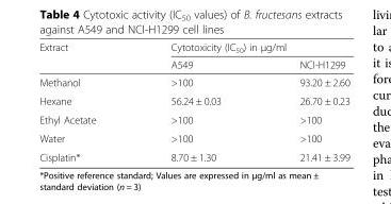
<table><thead><tr><td rowspan="2">Extract</td><td colspan="2">Cytotoxicity (IC<sub>50</sub>) in μg/ml</td></tr><tr><td>A549</td><td>NCI-H1299</td></tr></thead><tbody><tr><td>Methanol</td><td>&gt;100</td><td>93.20 ± 2.60</td></tr><tr><td>Hexane</td><td>56.24 ± 0.03</td><td>26.70 ± 0.23</td></tr><tr><td>Ethyl Acetate</td><td>&gt;100</td><td>&gt;100</td></tr><tr><td>Water</td><td>&gt;100</td><td>&gt;100</td></tr><tr><td>Cisplatin*</td><td>8.70 ± 1.30</td><td>21.41 ± 3.99</td></tr></tbody></table>